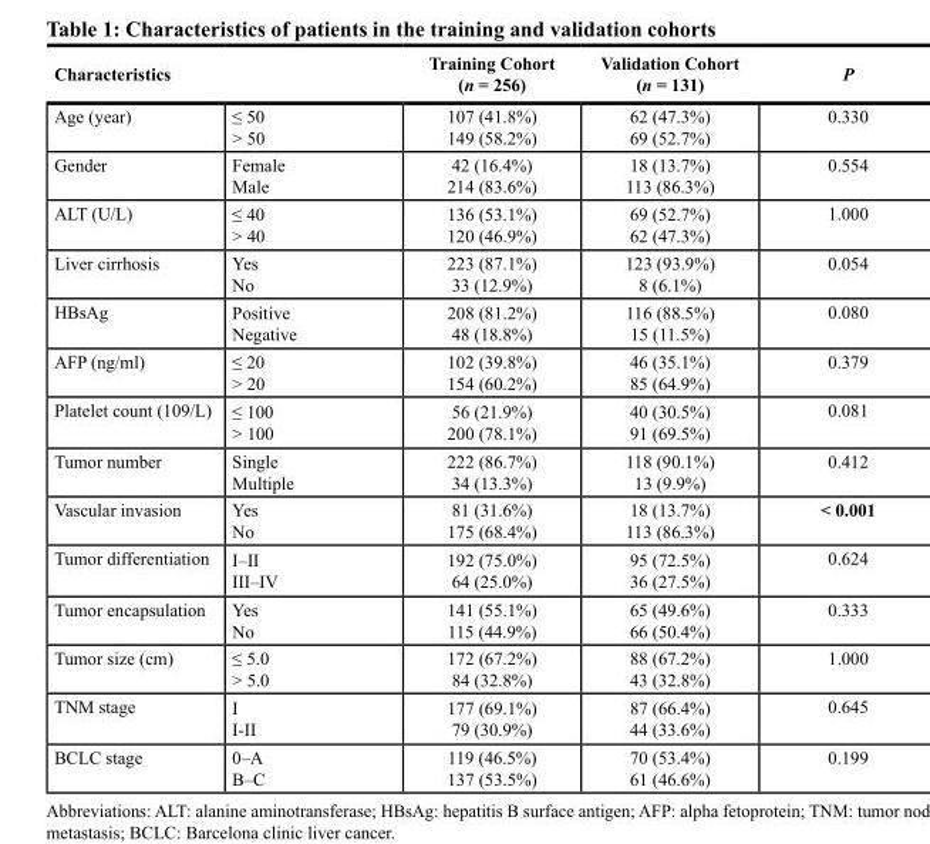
<table><thead><tr><td colspan="2">Characteristics</td><td rowspan="2">Training Cohort (n = 256) 107 (41.8%) 149 (58.2%)</td><td rowspan="2">Validation Cohort (n = 131) 62 (47.3%) 69 (52.7%)</td><td rowspan="2">P 0.330</td></tr><tr><td>Age (year)</td><td>≤ 50 &gt; 50</td></tr></thead><tbody><tr><td>Gender</td><td>Female Male</td><td>42 (16.4%) 214 (83.6%)</td><td>18 (13.7%) 113 (86.3%)</td><td>0.554</td></tr><tr><td>ALT (U/L)</td><td>≤ 40 &gt; 40</td><td>136 (53.1%) 120 (46.9%)</td><td>69 (52.7%) 62 (47.3%)</td><td>1.000</td></tr><tr><td>Liver cirrhosis</td><td>Yes No</td><td>223 (87.1%) 33 (12.9%)</td><td>123 (93.9%) 8 (6.1%)</td><td>0.054</td></tr><tr><td>HBsAg</td><td>Positive Negative</td><td>208 (81.2%) 48 (18.8%)</td><td>116 (88.5%) 15 (11.5%)</td><td>0.080</td></tr><tr><td>AFP (ng/ml)</td><td>≤ 20 &gt; 20</td><td>102 (39.8%) 154 (60.2%)</td><td>46 (35.1%) 85 (64.9%)</td><td>0.379</td></tr><tr><td>Platelet count (109/L)</td><td>≤ 100 &gt; 100</td><td>56 (21.9%) 200 (78.1%)</td><td>40 (30.5%) 91 (69.5%)</td><td>0.081</td></tr><tr><td>Tumor number</td><td>Single Multiple</td><td>222 (86.7%) 34 (13.3%)</td><td>118 (90.1%) 13 (9.9%)</td><td>0.412</td></tr><tr><td>Vascular invasion</td><td>Yes No</td><td>81 (31.6%) 175 (68.4%)</td><td>18 (13.7%) 113 (86.3%)</td><td>&lt; 0.001</td></tr><tr><td>Tumor differentiation</td><td>I–II III–IV</td><td>192 (75.0%) 64 (25.0%)</td><td>95 (72.5%) 36 (27.5%)</td><td>0.624</td></tr><tr><td>Tumor encapsulation</td><td>Yes No</td><td>141 (55.1%) 115 (44.9%)</td><td>65 (49.6%) 66 (50.4%)</td><td>0.333</td></tr><tr><td>Tumor size (cm)</td><td>≤ 5.0 &gt; 5.0</td><td>172 (67.2%) 84 (32.8%)</td><td>88 (67.2%) 43 (32.8%)</td><td>1.000</td></tr><tr><td>TNM stage</td><td>I I-II</td><td>177 (69.1%) 79 (30.9%)</td><td>87 (66.4%) 44 (33.6%)</td><td>0.645</td></tr><tr><td>BCLC stage</td><td>0–A B–C</td><td>119 (46.5%) 137 (53.5%)</td><td>70 (53.4%) 61 (46.6%)</td><td>0.199</td></tr></tbody></table>